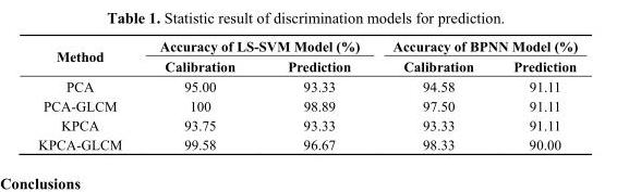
<table><thead><tr><td rowspan="2">Method</td><td colspan="2">Accuracy of LS-SVM Model (%)</td><td colspan="2">Accuracy of BPNN Model (%)</td></tr><tr><td>Calibration</td><td>Prediction</td><td>Calibration</td><td>Prediction</td></tr></thead><tbody><tr><td>PCA</td><td>95.00</td><td>93.33</td><td>94.58</td><td>91.11</td></tr><tr><td>PCA-GLCM</td><td>100</td><td>98.89</td><td>97.50</td><td>91.11</td></tr><tr><td>KPCA</td><td>93.75</td><td>93.33</td><td>93.33</td><td>91.11</td></tr><tr><td>KPCA-GLCM</td><td>99.58</td><td>96.67</td><td>98.33</td><td>90.00</td></tr></tbody></table>